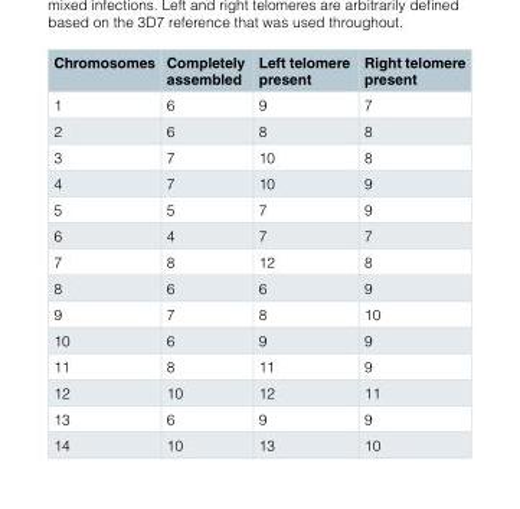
<table><thead><tr><td>Chromosomes</td><td>Completely assembled</td><td>Left telomere present</td><td>Right telomere present</td></tr></thead><tbody><tr><td>1</td><td>6</td><td>9</td><td>7</td></tr><tr><td>2</td><td>6</td><td>8</td><td>8</td></tr><tr><td>3</td><td>7</td><td>10</td><td>8</td></tr><tr><td>4</td><td>7</td><td>10</td><td>9</td></tr><tr><td>5</td><td>5</td><td>7</td><td>9</td></tr><tr><td>6</td><td>4</td><td>7</td><td>7</td></tr><tr><td>7</td><td>8</td><td>12</td><td>8</td></tr><tr><td>8</td><td>6</td><td>6</td><td>9</td></tr><tr><td>9</td><td>7</td><td>8</td><td>10</td></tr><tr><td>10</td><td>6</td><td>9</td><td>9</td></tr><tr><td>11</td><td>8</td><td>11</td><td>9</td></tr><tr><td>12</td><td>10</td><td>12</td><td>11</td></tr><tr><td>13</td><td>6</td><td>9</td><td>9</td></tr><tr><td>14</td><td>10</td><td>13</td><td>10</td></tr></tbody></table>